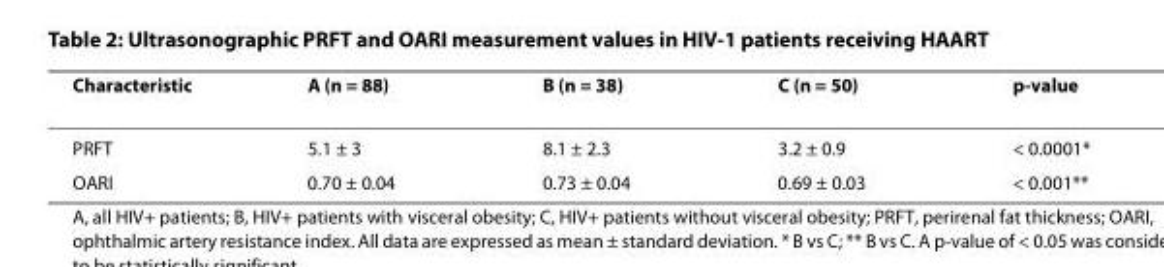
<table><thead><tr><td>Characteristic</td><td>A (n = 88)</td><td>B (n = 38)</td><td>C (n = 50)</td><td>p-value</td></tr></thead><tbody><tr><td>PRFT</td><td>5.1 ± 3</td><td>8.1 ± 2.3</td><td>3.2 ± 0.9</td><td>&lt; 0.0001*</td></tr><tr><td>OARI</td><td>0.70 ± 0.04</td><td>0.73 ± 0.04</td><td>0.69 ± 0.03</td><td>&lt; 0.001**</td></tr></tbody></table>